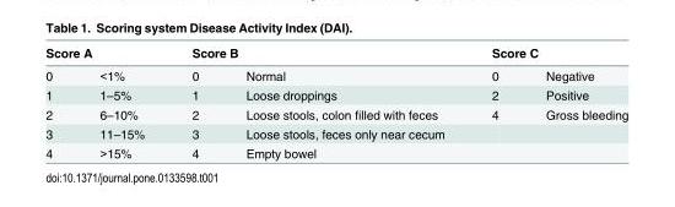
<table><thead><tr><td colspan="2">Score A</td><td colspan="2">Score B</td><td colspan="2">Score C</td></tr><tr><td>0</td><td>&lt;1%</td><td>0</td><td>Normal</td><td>0</td><td>Negative</td></tr></thead><tbody><tr><td>1</td><td>1–5%</td><td>1</td><td>Loose droppings</td><td>2</td><td>Positive</td></tr><tr><td>2</td><td>6–10%</td><td>2</td><td>Loose stools, colon filled with feces</td><td>4</td><td>Gross bleeding</td></tr><tr><td>3</td><td>11–15%</td><td>3</td><td>Loose stools, feces only near cecum</td><td></td><td></td></tr><tr><td>4</td><td>&gt;15%</td><td>4</td><td>Empty bowel</td><td></td><td></td></tr></tbody></table>